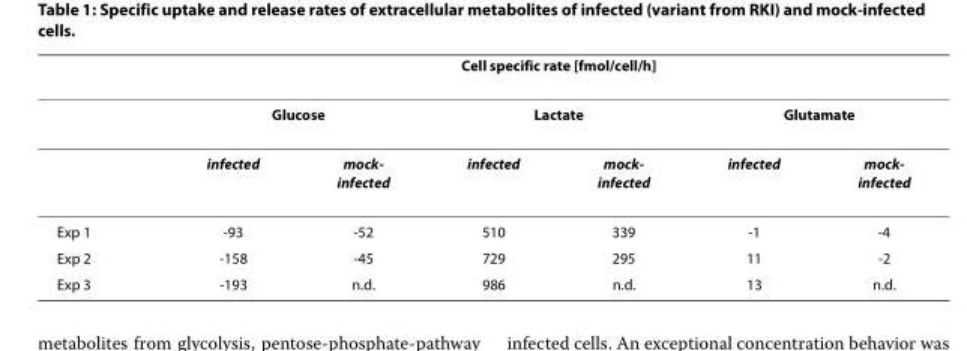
<table><thead><tr><td rowspan="3"></td><td colspan="6">Cell specific rate [fmol/cell/h]</td></tr><tr><td colspan="2">Glucose</td><td colspan="2">Lactate</td><td colspan="2">Glutamate</td></tr><tr><td>infected</td><td>mock- infected</td><td>infected</td><td>mock- infected</td><td>infected</td><td>mock- infected</td></tr></thead><tbody><tr><td>Exp 1</td><td>-93</td><td>-52</td><td>510</td><td>339</td><td>-1</td><td>-4</td></tr><tr><td>Exp 2</td><td>-158</td><td>-45</td><td>729</td><td>295</td><td>11</td><td>-2</td></tr><tr><td>Exp 3</td><td>-193</td><td>n.d.</td><td>986</td><td>n.d.</td><td>13</td><td>n.d.</td></tr></tbody></table>